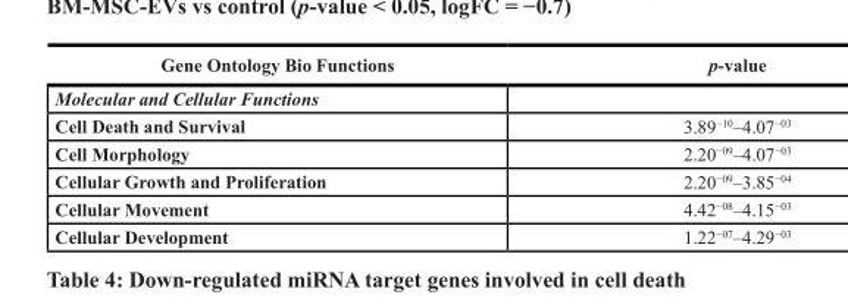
<table><thead><tr><td>Gene Ontology Bio Functions</td><td>p-value</td></tr></thead><tbody><tr><td colspan="2">Molecular and Cellular Functions</td></tr><tr><td>Cell Death and Survival</td><td>3.89<sup>−10</sup>–4.07<sup>−03</sup></td></tr><tr><td>Cell Morphology</td><td>2.20<sup>−09</sup>–4.07<sup>−03</sup></td></tr><tr><td>Cellular Growth and Proliferation</td><td>2.20<sup>−09</sup>–3.85<sup>−04</sup></td></tr><tr><td>Cellular Movement</td><td>4.42<sup>−08</sup>–4.15<sup>−03</sup></td></tr><tr><td>Cellular Development</td><td>1.22<sup>−07</sup>–4.29<sup>−03</sup></td></tr></tbody></table>